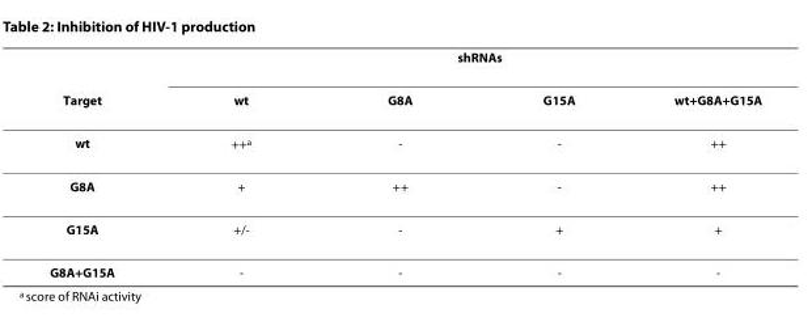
<table><thead><tr><td rowspan="2">Target</td><td colspan="4">shRNAs</td></tr><tr><td>wt</td><td>G8A</td><td>G15A</td><td>wt+G8A+G15A</td></tr></thead><tbody><tr><td>wt</td><td>++<sup>a</sup></td><td>-</td><td>-</td><td>++</td></tr><tr><td>G8A</td><td>+</td><td>++</td><td>-</td><td>++</td></tr><tr><td>G15A</td><td>+/-</td><td>-</td><td>+</td><td>+</td></tr><tr><td>G8A+G15A</td><td>-</td><td>-</td><td>-</td><td>-</td></tr></tbody></table>